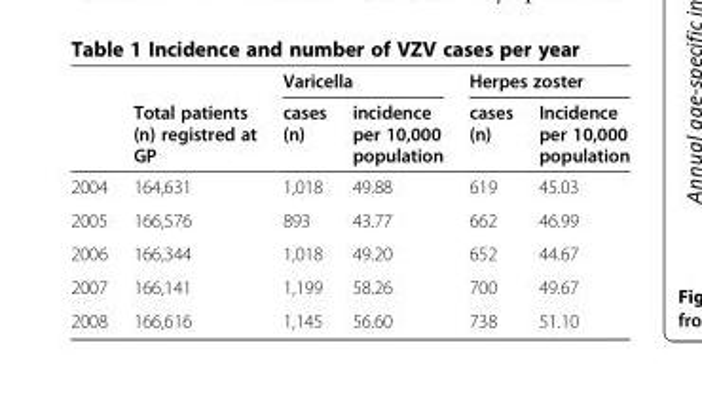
<table><thead><tr><td rowspan="2"></td><td rowspan="2">Total patients (n) registred at GP</td><td colspan="2">Varicella</td><td colspan="2">Herpes zoster</td></tr><tr><td>cases (n)</td><td>incidence per 10,000 population</td><td>cases (n)</td><td>Incidence per 10,000 population</td></tr></thead><tbody><tr><td>2004</td><td>164,631</td><td>1,018</td><td>49.88</td><td>619</td><td>45.03</td></tr><tr><td>2005</td><td>166,576</td><td>893</td><td>43.77</td><td>662</td><td>46.99</td></tr><tr><td>2006</td><td>166,344</td><td>1,018</td><td>49.20</td><td>652</td><td>44.67</td></tr><tr><td>2007</td><td>166,141</td><td>1,199</td><td>58.26</td><td>700</td><td>49.67</td></tr><tr><td>2008</td><td>166,616</td><td>1,145</td><td>56.60</td><td>738</td><td>51.10</td></tr></tbody></table>